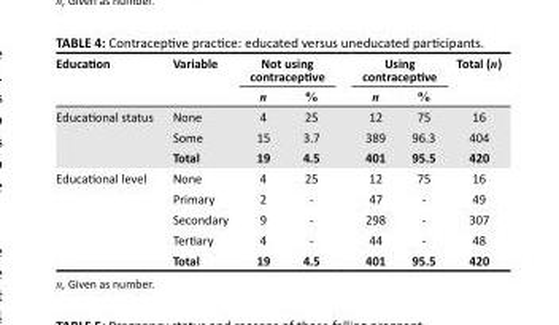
<table><thead><tr><td rowspan="2">Education</td><td rowspan="2">Variable</td><td colspan="2">Not using contraceptive</td><td colspan="2">Using contraceptive</td><td rowspan="2">Total (n)</td></tr><tr><td>n</td><td>%</td><td>n</td><td>%</td></tr></thead><tbody><tr><td rowspan="3">Educational status</td><td>None</td><td>4</td><td>25</td><td>12</td><td>75</td><td>16</td></tr><tr><td>Some</td><td>15</td><td>3.7</td><td>389</td><td>96.3</td><td>404</td></tr><tr><td>Total</td><td>19</td><td>4.5</td><td>401</td><td>95.5</td><td>420</td></tr><tr><td rowspan="5">Educational level</td><td>None</td><td>4</td><td>25</td><td>12</td><td>75</td><td>16</td></tr><tr><td>Primary</td><td>2</td><td>-</td><td>47</td><td>-</td><td>49</td></tr><tr><td>Secondary</td><td>9</td><td>-</td><td>298</td><td>-</td><td>307</td></tr><tr><td>Tertiary</td><td>4</td><td>-</td><td>44</td><td>-</td><td>48</td></tr><tr><td>Total</td><td>19</td><td>4.5</td><td>401</td><td>95.5</td><td>420</td></tr></tbody></table>